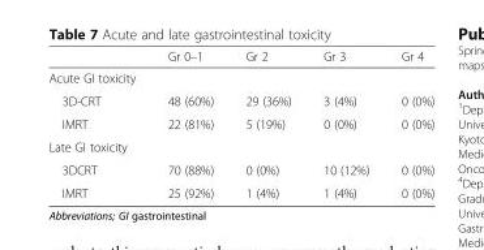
<table><thead><tr><td></td><td>Gr 0–1</td><td>Gr 2</td><td>Gr 3</td><td>Gr 4</td></tr></thead><tbody><tr><td colspan="5">Acute GI toxicity</td></tr><tr><td>3D-CRT</td><td>48 (60%)</td><td>29 (36%)</td><td>3 (4%)</td><td>0 (0%)</td></tr><tr><td>IMRT</td><td>22 (81%)</td><td>5 (19%)</td><td>0 (0%)</td><td>0 (0%)</td></tr><tr><td colspan="5">Late GI toxicity</td></tr><tr><td>3DCRT</td><td>70 (88%)</td><td>0 (0%)</td><td>10 (12%)</td><td>0 (0%)</td></tr><tr><td>IMRT</td><td>25 (92%)</td><td>1 (4%)</td><td>1 (4%)</td><td>0 (0%)</td></tr></tbody></table>